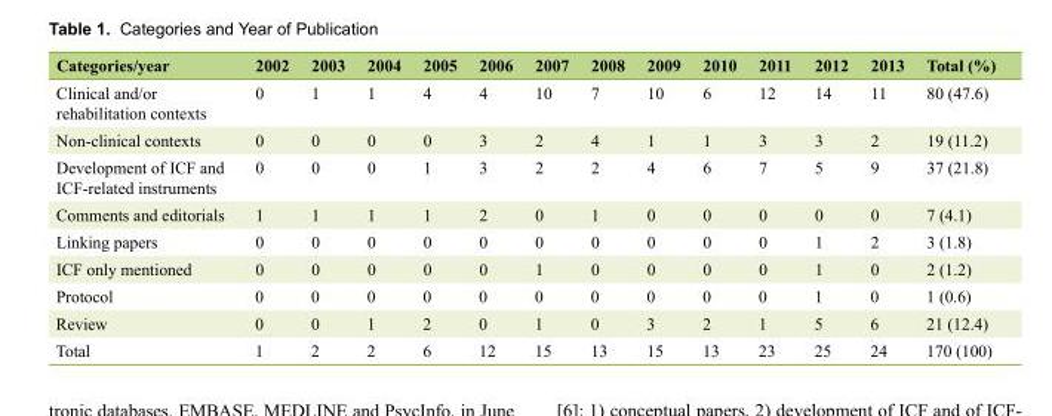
<table><thead><tr><td>Categories/year</td><td>2002</td><td>2003</td><td>2004</td><td>2005</td><td>2006</td><td>2007</td><td>2008</td><td>2009</td><td>2010</td><td>2011</td><td>2012</td><td>2013</td><td>Total (%)</td></tr></thead><tbody><tr><td>Clinical and/or rehabilitation contexts</td><td>0</td><td>1</td><td>1</td><td>4</td><td>4</td><td>10</td><td>7</td><td>10</td><td>6</td><td>12</td><td>14</td><td>11</td><td>80 (47.6)</td></tr><tr><td>Non-clinical contexts</td><td>0</td><td>0</td><td>0</td><td>0</td><td>3</td><td>2</td><td>4</td><td>1</td><td>1</td><td>3</td><td>3</td><td>2</td><td>19 (11.2)</td></tr><tr><td>Development of ICF and ICF-related instruments</td><td>0</td><td>0</td><td>0</td><td>1</td><td>3</td><td>2</td><td>2</td><td>4</td><td>6</td><td>7</td><td>5</td><td>9</td><td>37 (21.8)</td></tr><tr><td>Comments and editorials</td><td>1</td><td>1</td><td>1</td><td>1</td><td>2</td><td>0</td><td>1</td><td>0</td><td>0</td><td>0</td><td>0</td><td>0</td><td>7 (4.1)</td></tr><tr><td>Linking papers</td><td>0</td><td>0</td><td>0</td><td>0</td><td>0</td><td>0</td><td>0</td><td>0</td><td>0</td><td>0</td><td>1</td><td>2</td><td>3 (1.8)</td></tr><tr><td>ICF only mentioned</td><td>0</td><td>0</td><td>0</td><td>0</td><td>0</td><td>1</td><td>0</td><td>0</td><td>0</td><td>0</td><td>1</td><td>0</td><td>2 (1.2)</td></tr><tr><td>Protocol</td><td>0</td><td>0</td><td>0</td><td>0</td><td>0</td><td>0</td><td>0</td><td>0</td><td>0</td><td>0</td><td>1</td><td>0</td><td>1 (0.6)</td></tr><tr><td>Review</td><td>0</td><td>0</td><td>1</td><td>2</td><td>0</td><td>1</td><td>0</td><td>3</td><td>2</td><td>1</td><td>5</td><td>6</td><td>21 (12.4)</td></tr><tr><td>Total</td><td>1</td><td>2</td><td>2</td><td>6</td><td>12</td><td>15</td><td>13</td><td>15</td><td>13</td><td>23</td><td>25</td><td>24</td><td>170 (100)</td></tr></tbody></table>